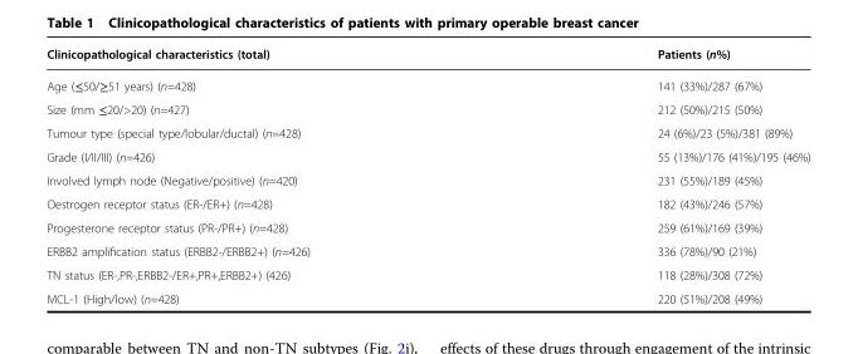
<table><thead><tr><td>Clinicopathological characteristics (total)</td><td>Patients (n%)</td></tr></thead><tbody><tr><td>Age (≤50/≥51 years) (n=428)</td><td>141 (33%)/287 (67%)</td></tr><tr><td>Size (mm ≤20/&gt;20) (n=427)</td><td>212 (50%)/215 (50%)</td></tr><tr><td>Tumour type (special type/lobular/ductal) (n=428)</td><td>24 (6%)/23 (5%)/381 (89%)</td></tr><tr><td>Grade (I/II/III) (n=426)</td><td>55 (13%)/176 (41%)/195 (46%)</td></tr><tr><td>Involved lymph node (Negative/positive) (n=420)</td><td>231 (55%)/189 (45%)</td></tr><tr><td>Oestrogen receptor status (ER-/ER+) (n=428)</td><td>182 (43%)/246 (57%)</td></tr><tr><td>Progesterone receptor status (PR-/PR+) (n=428)</td><td>259 (61%)/169 (39%)</td></tr><tr><td>ERBB2 amplification status (ERBB2-/ERBB2+) (n=426)</td><td>336 (78%)/90 (21%)</td></tr><tr><td>TN status (ER-,PR-,ERBB2-/ER+,PR+,ERBB2+) (426)</td><td>118 (28%)/308 (72%)</td></tr><tr><td>MCL-1 (High/low) (n=428)</td><td>220 (51%)/208 (49%)</td></tr></tbody></table>